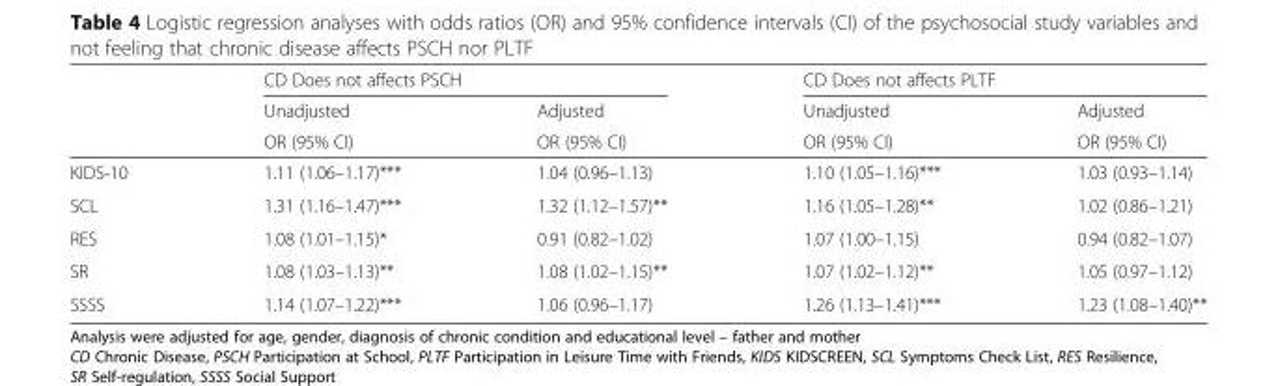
<table><thead><tr><td rowspan="3"></td><td colspan="2">CD Does not affects PSCH</td><td colspan="2">CD Does not affects PLTF</td></tr><tr><td rowspan="2">Unadjusted OR (95% CI)</td><td rowspan="2">Adjusted OR (95% CI)</td><td rowspan="2">Unadjusted OR (95% CI)</td><td rowspan="2">Adjusted OR (95% CI)</td></tr><tr></tr></thead><tbody><tr><td>KIDS-10</td><td>1.11 (1.06–1.17)***</td><td>1.04 (0.96–1.13)</td><td>1.10 (1.05–1.16)***</td><td>1.03 (0.93–1.14)</td></tr><tr><td>SCL</td><td>1.31 (1.16–1.47)***</td><td>1.32 (1.12–1.57)**</td><td>1.16 (1.05–1.28)**</td><td>1.02 (0.86–1.21)</td></tr><tr><td>RES</td><td>1.08 (1.01–1.15)*</td><td>0.91 (0.82–1.02)</td><td>1.07 (1.00–1.15)</td><td>0.94 (0.82–1.07)</td></tr><tr><td>SR</td><td>1.08 (1.03–1.13)**</td><td>1.08 (1.02–1.15)**</td><td>1.07 (1.02–1.12)**</td><td>1.05 (0.97–1.12)</td></tr><tr><td>SSSS</td><td>1.14 (1.07–1.22)***</td><td>1.06 (0.96–1.17)</td><td>1.26 (1.13–1.41)***</td><td>1.23 (1.08–1.40)**</td></tr></tbody></table>